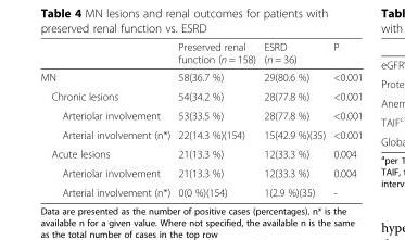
<table><thead><tr><td></td><td>Preserved renal function (n = 158)</td><td>ESRD (n = 36)</td><td>P</td></tr></thead><tbody><tr><td>MN</td><td>58(36.7 %)</td><td>29(80.6 %)</td><td>&lt;0.001</td></tr><tr><td>Chronic lesions</td><td>54(34.2 %)</td><td>28(77.8 %)</td><td>&lt;0.001</td></tr><tr><td>Arteriolar involvement</td><td>53(33.5 %)</td><td>28(77.8 %)</td><td>&lt;0.001</td></tr><tr><td>Arterial involvement (n*)</td><td>22(14.3 %)(154)</td><td>15(42.9 %)(35)</td><td>&lt;0.001</td></tr><tr><td>Acute lesions</td><td>21(13.3 %)</td><td>12(33.3 %)</td><td>0.004</td></tr><tr><td>Arteriolar involvement</td><td>21(13.3 %)</td><td>12(33.3 %)</td><td>0.004</td></tr><tr><td>Arterial involvement (n*)</td><td>0(0 %)(154)</td><td>1(2.9 %)(35)</td><td>-</td></tr></tbody></table>